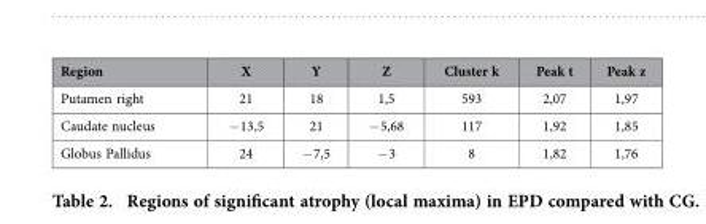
<table><thead><tr><td>Region</td><td>X</td><td>Y</td><td>Z</td><td>Cluster k</td><td>Peak t</td><td>Peak z</td></tr></thead><tbody><tr><td>Putamen right</td><td>21</td><td>18</td><td>1,5</td><td>593</td><td>2,07</td><td>1,97</td></tr><tr><td>Caudate nucleus</td><td>− 13,5</td><td>21</td><td>− 5,68</td><td>117</td><td>1,92</td><td>1,85</td></tr><tr><td>Globus Pallidus</td><td>24</td><td>− 7,5</td><td>− 3</td><td>8</td><td>1,82</td><td>1,76</td></tr></tbody></table>